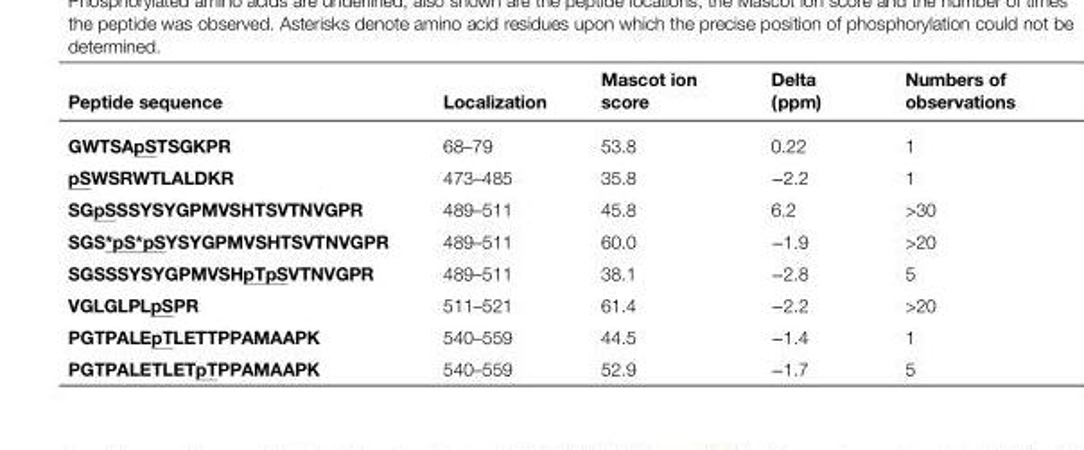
<table><thead><tr><td>Peptide sequence</td><td>Localization</td><td>Mascot ion score</td><td>Delta (ppm)</td><td>Numbers of observations</td></tr></thead><tbody><tr><td>GWTSApSTSGKPR</td><td>68–79</td><td>53.8</td><td>0.22</td><td>1</td></tr><tr><td>pSWSRWTLALDKR</td><td>473–485</td><td>35.8</td><td>−2.2</td><td>1</td></tr><tr><td>SGpSSSYSYGPMVSHTSVTNVGPR</td><td>489–511</td><td>45.8</td><td>6.2</td><td>&gt;30</td></tr><tr><td>SGS*pS*pSYSYGPMVSHTSVTNVGPR</td><td>489–511</td><td>60.0</td><td>−1.9</td><td>&gt;20</td></tr><tr><td>SGSSSYSYGPMVSHpTpSVTNVGPR</td><td>489–511</td><td>38.1</td><td>−2.8</td><td>5</td></tr><tr><td>VGLGLPLpSPR</td><td>511–521</td><td>61.4</td><td>−2.2</td><td>&gt;20</td></tr><tr><td>PGTPALEpTLETTPPAMAAPK</td><td>540–559</td><td>44.5</td><td>−1.4</td><td>1</td></tr><tr><td>PGTPALETLETpTPPAMAAPK</td><td>540–559</td><td>52.9</td><td>−1.7</td><td>5</td></tr></tbody></table>